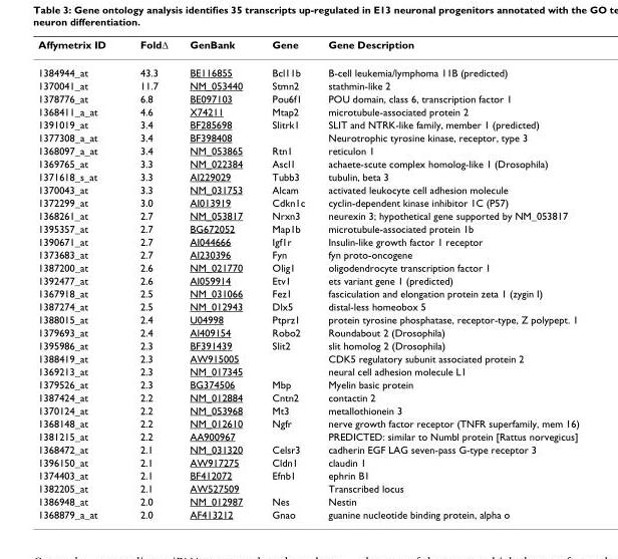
<table><thead><tr><td>Affymetrix ID</td><td>FoldΔ</td><td>GenBank</td><td>Gene</td><td>Gene Description</td></tr></thead><tbody><tr><td>1384944_at</td><td>43.3</td><td>BE116855</td><td>Bcl11b</td><td>B-cell leukemia/lymphoma 11B (predicted)</td></tr><tr><td>1370041_at</td><td>11.7</td><td>NM_053440</td><td>Stmn2</td><td>stathmin-like 2</td></tr><tr><td>1378776_at</td><td>6.8</td><td>BE097103</td><td>Pou6f1</td><td>POU domain, class 6, transcription factor 1</td></tr><tr><td>1368411_a_at</td><td>4.6</td><td>X74211</td><td>Mtap2</td><td>microtubule-associated protein 2</td></tr><tr><td>1391019_at</td><td>3.4</td><td>BF285698</td><td>Slitrk1</td><td>SLIT and NTRK-like family, member 1 (predicted)</td></tr><tr><td>1377308_a_at</td><td>3.4</td><td>BF398408</td><td></td><td>Neurotrophic tyrosine kinase, receptor, type 3</td></tr><tr><td>1368097_a_at</td><td>3.4</td><td>NM_053865</td><td>Rtn1</td><td>reticulon 1</td></tr><tr><td>1369765_at</td><td>3.3</td><td>NM_022384</td><td>Ascl1</td><td>achaete-scute complex homolog-like 1 (Drosophila)</td></tr><tr><td>1371618_s_at</td><td>3.3</td><td>AI229029</td><td>Tubb3</td><td>tubulin, beta 3</td></tr><tr><td>1370043_at</td><td>3.3</td><td>NM_031753</td><td>Alcam</td><td>activated leukocyte cell adhesion molecule</td></tr><tr><td>1372299_at</td><td>3.0</td><td>AI013919</td><td>Cdkn1c</td><td>cyclin-dependent kinase inhibitor 1C (P57)</td></tr><tr><td>1368261_at</td><td>2.7</td><td>NM_053817</td><td>Nrxn3</td><td>neurexin 3; hypothetical gene supported by NM_053817</td></tr><tr><td>1395357_at</td><td>2.7</td><td>BG672052</td><td>Map1b</td><td>microtubule-associated protein 1b</td></tr><tr><td>1390671_at</td><td>2.7</td><td>AI044666</td><td>Igf1r</td><td>Insulin-like growth factor 1 receptor</td></tr><tr><td>1373683_at</td><td>2.7</td><td>AI230396</td><td>Fyn</td><td>fyn proto-oncogene</td></tr><tr><td>1387200_at</td><td>2.6</td><td>NM_021770</td><td>Olig1</td><td>oligodendrocyte transcription factor 1</td></tr><tr><td>1392477_at</td><td>2.6</td><td>AI059914</td><td>Etv1</td><td>ets variant gene 1 (predicted)</td></tr><tr><td>1367918_at</td><td>2.5</td><td>NM_031066</td><td>Fez1</td><td>fasciculation and elongation protein zeta 1 (zygin I)</td></tr><tr><td>1387274_at</td><td>2.5</td><td>NM_012943</td><td>Dlx5</td><td>distal-less homeobox 5</td></tr><tr><td>1388015_at</td><td>2.4</td><td>U04998</td><td>Ptprz1</td><td>protein tyrosine phosphatase, receptor-type, Z polypept. 1</td></tr><tr><td>1379693_at</td><td>2.4</td><td>AI409154</td><td>Robo2</td><td>Roundabout 2 (Drosophila)</td></tr><tr><td>1395986_at</td><td>2.3</td><td>BF391439</td><td>Slit2</td><td>slit homolog 2 (Drosophila)</td></tr><tr><td>1388419_at</td><td>2.3</td><td>AW915005</td><td></td><td>CDK5 regulatory subunit associated protein 2</td></tr><tr><td>1369213_at</td><td>2.3</td><td>NM_017345</td><td></td><td>neural cell adhesion molecule L1</td></tr><tr><td>1379526_at</td><td>2.3</td><td>BG374506</td><td>Mbp</td><td>Myelin basic protein</td></tr><tr><td>1387424_at</td><td>2.2</td><td>NM_012884</td><td>Cntn2</td><td>contactin 2</td></tr><tr><td>1370124_at</td><td>2.2</td><td>NM_053968</td><td>Mt3</td><td>metallothionein 3</td></tr><tr><td>1368148_at</td><td>2.2</td><td>NM_012610</td><td>Ngfr</td><td>nerve growth factor receptor (TNFR superfamily, mem 16)</td></tr><tr><td>1381215_at</td><td>2.2</td><td>AA900967</td><td></td><td>PREDICTED: similar to Numbl protein [Rattus norvegicus]</td></tr><tr><td>1368472_at</td><td>2.1</td><td>NM_031320</td><td>Celsr3</td><td>cadherin EGF LAG seven-pass G-type receptor 3</td></tr><tr><td>1396150_at</td><td>2.1</td><td>AW917275</td><td>Cldn1</td><td>claudin 1</td></tr><tr><td>1374403_at</td><td>2.1</td><td>BF412072</td><td>Efnb1</td><td>ephrin B1</td></tr><tr><td>1382205_at</td><td>2.1</td><td>AW527509</td><td></td><td>Transcribed locus</td></tr><tr><td>1386948_at</td><td>2.0</td><td>NM_012987</td><td>Nes</td><td>Nestin</td></tr><tr><td>1368879_a_at</td><td>2.0</td><td>AF413212</td><td>Gnao</td><td>guanine nucleotide binding protein, alpha o</td></tr></tbody></table>